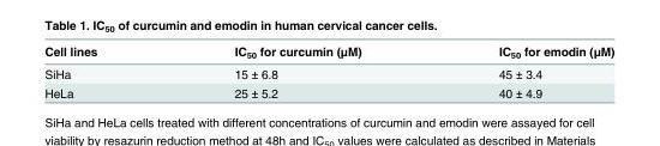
<table><thead><tr><td>Cell lines</td><td>IC<sub>50</sub> for curcumin (μM)</td><td>IC<sub>50</sub> for emodin (μM)</td></tr></thead><tbody><tr><td>SiHa</td><td>15 ± 6.8</td><td>45 ± 3.4</td></tr><tr><td>HeLa</td><td>25 ± 5.2</td><td>40 ± 4.9</td></tr></tbody></table>